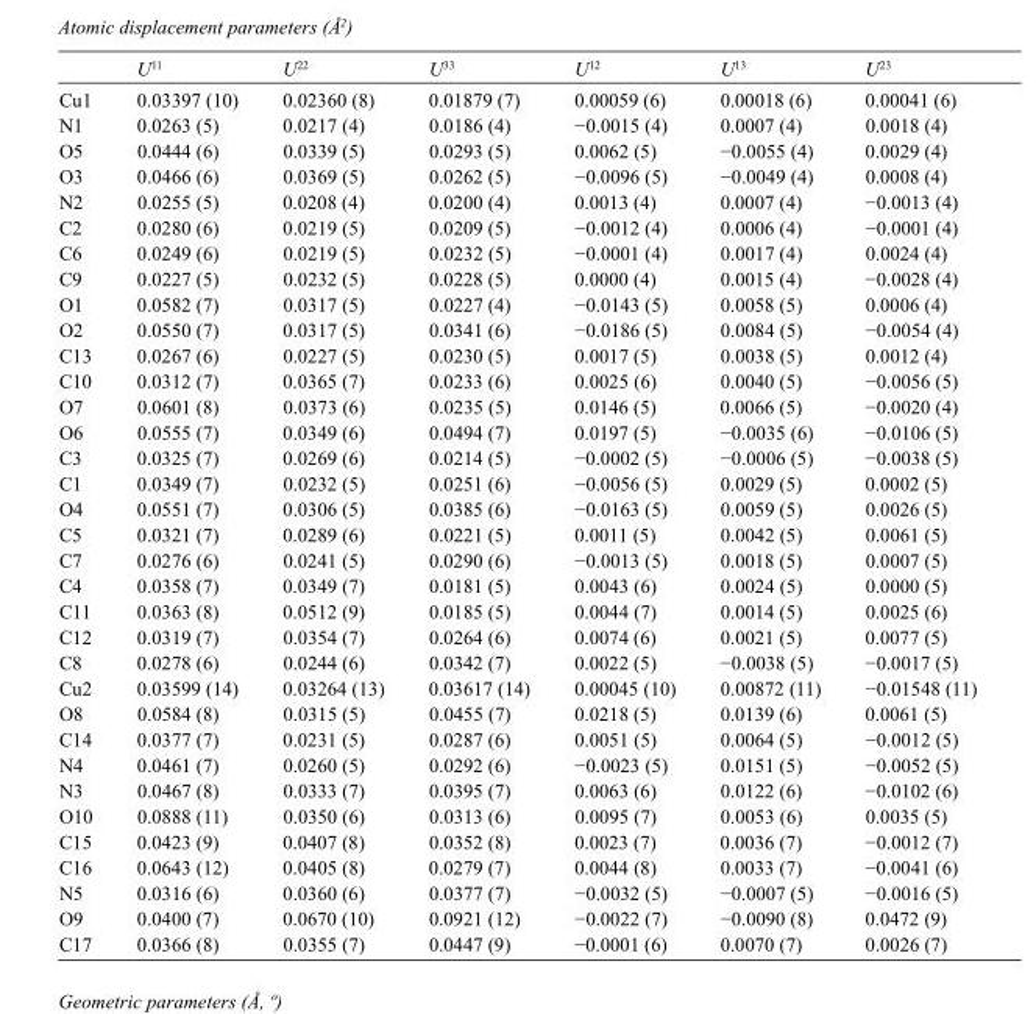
<table><thead><tr><td></td><td>U<sup>11</sup></td><td>U<sup>22</sup></td><td>U<sup>33</sup></td><td>U<sup>12</sup></td><td>U<sup>13</sup></td><td>U<sup>23</sup></td></tr></thead><tbody><tr><td>Cu1</td><td>0.03397 (10)</td><td>0.02360 (8)</td><td>0.01879 (7)</td><td>0.00059 (6)</td><td>0.00018 (6)</td><td>0.00041 (6)</td></tr><tr><td>N1</td><td>0.0263 (5)</td><td>0.0217 (4)</td><td>0.0186 (4)</td><td>−0.0015 (4)</td><td>0.0007 (4)</td><td>0.0018 (4)</td></tr><tr><td>O5</td><td>0.0444 (6)</td><td>0.0339 (5)</td><td>0.0293 (5)</td><td>0.0062 (5)</td><td>−0.0055 (4)</td><td>0.0029 (4)</td></tr><tr><td>O3</td><td>0.0466 (6)</td><td>0.0369 (5)</td><td>0.0262 (5)</td><td>−0.0096 (5)</td><td>−0.0049 (4)</td><td>0.0008 (4)</td></tr><tr><td>N2</td><td>0.0255 (5)</td><td>0.0208 (4)</td><td>0.0200 (4)</td><td>0.0013 (4)</td><td>0.0007 (4)</td><td>−0.0013 (4)</td></tr><tr><td>C2</td><td>0.0280 (6)</td><td>0.0219 (5)</td><td>0.0209 (5)</td><td>−0.0012 (4)</td><td>0.0006 (4)</td><td>−0.0001 (4)</td></tr><tr><td>C6</td><td>0.0249 (6)</td><td>0.0219 (5)</td><td>0.0232 (5)</td><td>−0.0001 (4)</td><td>0.0017 (4)</td><td>0.0024 (4)</td></tr><tr><td>C9</td><td>0.0227 (5)</td><td>0.0232 (5)</td><td>0.0228 (5)</td><td>0.0000 (4)</td><td>0.0015 (4)</td><td>−0.0028 (4)</td></tr><tr><td>O1</td><td>0.0582 (7)</td><td>0.0317 (5)</td><td>0.0227 (4)</td><td>−0.0143 (5)</td><td>0.0058 (5)</td><td>0.0006 (4)</td></tr><tr><td>O2</td><td>0.0550 (7)</td><td>0.0317 (5)</td><td>0.0341 (6)</td><td>−0.0186 (5)</td><td>0.0084 (5)</td><td>−0.0054 (4)</td></tr><tr><td>C13</td><td>0.0267 (6)</td><td>0.0227 (5)</td><td>0.0230 (5)</td><td>0.0017 (5)</td><td>0.0038 (5)</td><td>0.0012 (4)</td></tr><tr><td>C10</td><td>0.0312 (7)</td><td>0.0365 (7)</td><td>0.0233 (6)</td><td>0.0025 (6)</td><td>0.0040 (5)</td><td>−0.0056 (5)</td></tr><tr><td>O7</td><td>0.0601 (8)</td><td>0.0373 (6)</td><td>0.0235 (5)</td><td>0.0146 (5)</td><td>0.0066 (5)</td><td>−0.0020 (4)</td></tr><tr><td>O6</td><td>0.0555 (7)</td><td>0.0349 (6)</td><td>0.0494 (7)</td><td>0.0197 (5)</td><td>−0.0035 (6)</td><td>−0.0106 (5)</td></tr><tr><td>C3</td><td>0.0325 (7)</td><td>0.0269 (6)</td><td>0.0214 (5)</td><td>−0.0002 (5)</td><td>−0.0006 (5)</td><td>−0.0038 (5)</td></tr><tr><td>C1</td><td>0.0349 (7)</td><td>0.0232 (5)</td><td>0.0251 (6)</td><td>−0.0056 (5)</td><td>0.0029 (5)</td><td>0.0002 (5)</td></tr><tr><td>O4</td><td>0.0551 (7)</td><td>0.0306 (5)</td><td>0.0385 (6)</td><td>−0.0163 (5)</td><td>0.0059 (5)</td><td>0.0026 (5)</td></tr><tr><td>C5</td><td>0.0321 (7)</td><td>0.0289 (6)</td><td>0.0221 (5)</td><td>0.0011 (5)</td><td>0.0042 (5)</td><td>0.0061 (5)</td></tr><tr><td>C7</td><td>0.0276 (6)</td><td>0.0241 (5)</td><td>0.0290 (6)</td><td>−0.0013 (5)</td><td>0.0018 (5)</td><td>0.0007 (5)</td></tr><tr><td>C4</td><td>0.0358 (7)</td><td>0.0349 (7)</td><td>0.0181 (5)</td><td>0.0043 (6)</td><td>0.0024 (5)</td><td>0.0000 (5)</td></tr><tr><td>C11</td><td>0.0363 (8)</td><td>0.0512 (9)</td><td>0.0185 (5)</td><td>0.0044 (7)</td><td>0.0014 (5)</td><td>0.0025 (6)</td></tr><tr><td>C12</td><td>0.0319 (7)</td><td>0.0354 (7)</td><td>0.0264 (6)</td><td>0.0074 (6)</td><td>0.0021 (5)</td><td>0.0077 (5)</td></tr><tr><td>C8</td><td>0.0278 (6)</td><td>0.0244 (6)</td><td>0.0342 (7)</td><td>0.0022 (5)</td><td>−0.0038 (5)</td><td>−0.0017 (5)</td></tr><tr><td>Cu2</td><td>0.03599 (14)</td><td>0.03264 (13)</td><td>0.03617 (14)</td><td>0.00045 (10)</td><td>0.00872 (11)</td><td>−0.01548 (11)</td></tr><tr><td>O8</td><td>0.0584 (8)</td><td>0.0315 (5)</td><td>0.0455 (7)</td><td>0.0218 (5)</td><td>0.0139 (6)</td><td>0.0061 (5)</td></tr><tr><td>C14</td><td>0.0377 (7)</td><td>0.0231 (5)</td><td>0.0287 (6)</td><td>0.0051 (5)</td><td>0.0064 (5)</td><td>−0.0012 (5)</td></tr><tr><td>N4</td><td>0.0461 (7)</td><td>0.0260 (5)</td><td>0.0292 (6)</td><td>−0.0023 (5)</td><td>0.0151 (5)</td><td>−0.0052 (5)</td></tr><tr><td>N3</td><td>0.0467 (8)</td><td>0.0333 (7)</td><td>0.0395 (7)</td><td>0.0063 (6)</td><td>0.0122 (6)</td><td>−0.0102 (6)</td></tr><tr><td>O10</td><td>0.0888 (11)</td><td>0.0350 (6)</td><td>0.0313 (6)</td><td>0.0095 (7)</td><td>0.0053 (6)</td><td>0.0035 (5)</td></tr><tr><td>C15</td><td>0.0423 (9)</td><td>0.0407 (8)</td><td>0.0352 (8)</td><td>0.0023 (7)</td><td>0.0036 (7)</td><td>−0.0012 (7)</td></tr><tr><td>C16</td><td>0.0643 (12)</td><td>0.0405 (8)</td><td>0.0279 (7)</td><td>0.0044 (8)</td><td>0.0033 (7)</td><td>−0.0041 (6)</td></tr><tr><td>N5</td><td>0.0316 (6)</td><td>0.0360 (6)</td><td>0.0377 (7)</td><td>−0.0032 (5)</td><td>−0.0007 (5)</td><td>−0.0016 (5)</td></tr><tr><td>O9</td><td>0.0400 (7)</td><td>0.0670 (10)</td><td>0.0921 (12)</td><td>−0.0022 (7)</td><td>−0.0090 (8)</td><td>0.0472 (9)</td></tr><tr><td>C17</td><td>0.0366 (8)</td><td>0.0355 (7)</td><td>0.0447 (9)</td><td>−0.0001 (6)</td><td>0.0070 (7)</td><td>0.0026 (7)</td></tr></tbody></table>